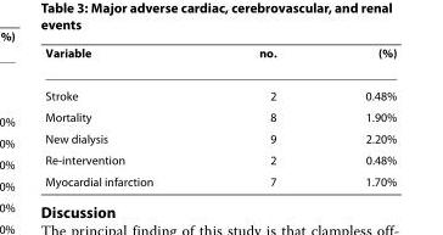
<table><thead><tr><td>Variable</td><td>no.</td><td>(%)</td></tr></thead><tbody><tr><td>Stroke</td><td>2</td><td>0.48%</td></tr><tr><td>Mortality</td><td>8</td><td>1.90%</td></tr><tr><td>New dialysis</td><td>9</td><td>2.20%</td></tr><tr><td>Re-intervention</td><td>2</td><td>0.48%</td></tr><tr><td>Myocardial infarction</td><td>7</td><td>1.70%</td></tr></tbody></table>